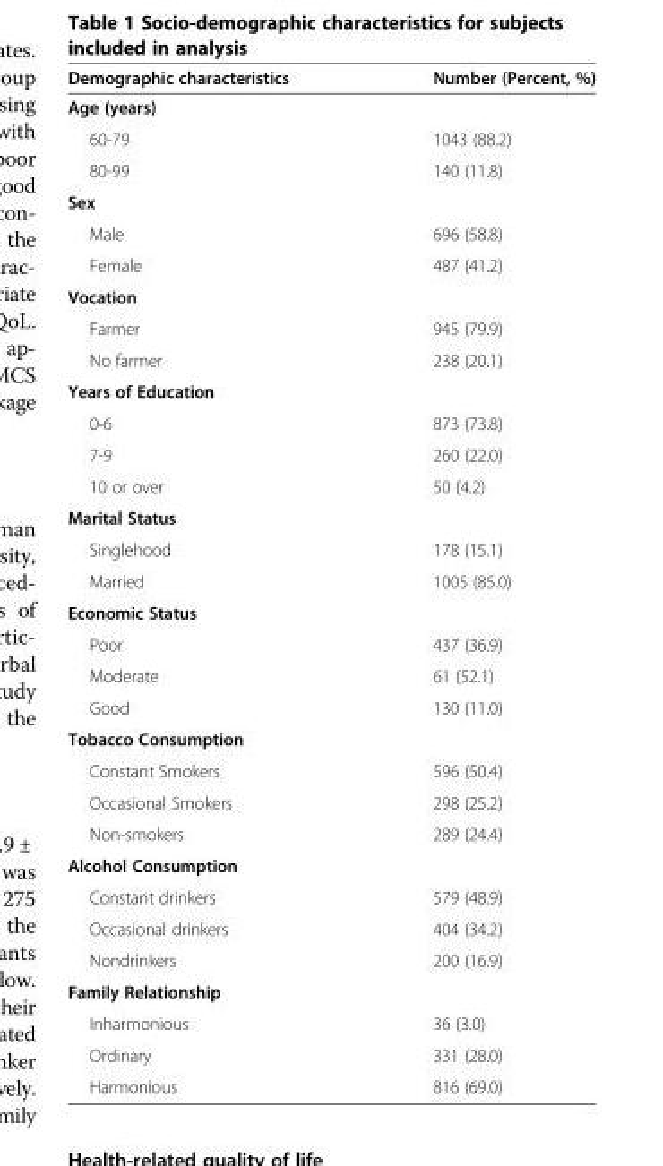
<table><thead><tr><td>Demographic characteristics</td><td>Number (Percent, %)</td></tr></thead><tbody><tr><td colspan="2">Age (years)</td></tr><tr><td>60-79</td><td>1043 (88.2)</td></tr><tr><td>80-99</td><td>140 (11.8)</td></tr><tr><td colspan="2">Sex</td></tr><tr><td>Male</td><td>696 (58.8)</td></tr><tr><td>Female</td><td>487 (41.2)</td></tr><tr><td colspan="2">Vocation</td></tr><tr><td>Farmer</td><td>945 (79.9)</td></tr><tr><td>No farmer</td><td>238 (20.1)</td></tr><tr><td colspan="2">Years of Education</td></tr><tr><td>0-6</td><td>873 (73.8)</td></tr><tr><td>7-9</td><td>260 (22.0)</td></tr><tr><td>10 or over</td><td>50 (4.2)</td></tr><tr><td colspan="2">Marital Status</td></tr><tr><td>Singlehood</td><td>178 (15.1)</td></tr><tr><td>Married</td><td>1005 (85.0)</td></tr><tr><td colspan="2">Economic Status</td></tr><tr><td>Poor</td><td>437 (36.9)</td></tr><tr><td>Moderate</td><td>61 (52.1)</td></tr><tr><td>Good</td><td>130 (11.0)</td></tr><tr><td colspan="2">Tobacco Consumption</td></tr><tr><td>Constant Smokers</td><td>596 (50.4)</td></tr><tr><td>Occasional Smokers</td><td>298 (25.2)</td></tr><tr><td>Non-smokers</td><td>289 (24.4)</td></tr><tr><td colspan="2">Alcohol Consumption</td></tr><tr><td>Constant drinkers</td><td>579 (48.9)</td></tr><tr><td>Occasional drinkers</td><td>404 (34.2)</td></tr><tr><td>Nondrinkers</td><td>200 (16.9)</td></tr><tr><td colspan="2">Family Relationship</td></tr><tr><td>Inharmonious</td><td>36 (3.0)</td></tr><tr><td>Ordinary</td><td>331 (28.0)</td></tr><tr><td>Harmonious</td><td>816 (69.0)</td></tr></tbody></table>